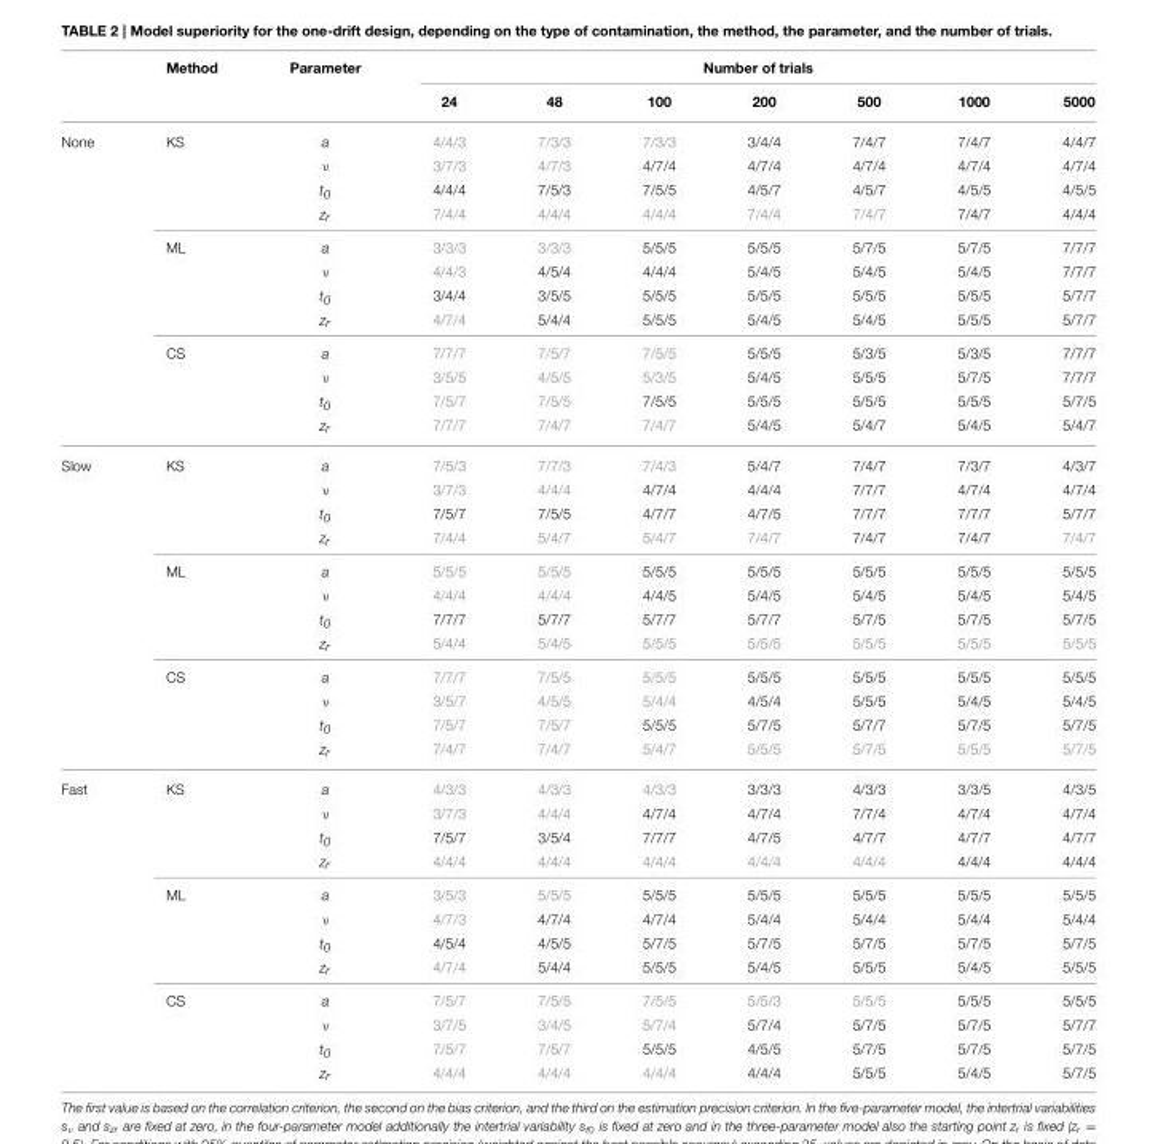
<table><thead><tr><td rowspan="2"></td><td rowspan="2">Method</td><td rowspan="2">Parameter</td><td colspan="7">Number of trials</td></tr><tr><td>24</td><td>48</td><td>100</td><td>200</td><td>500</td><td>1000</td><td>5000</td></tr></thead><tbody><tr><td rowspan="12">None</td><td>KS</td><td>a</td><td>4/4/3</td><td>7/3/3</td><td>7/3/3</td><td>3/4/4</td><td>7/4/7</td><td>7/4/7</td><td>4/4/7</td></tr><tr><td></td><td>ν</td><td>3/7/3</td><td>4/7/3</td><td>4/7/4</td><td>4/7/4</td><td>4/7/4</td><td>4/7/4</td><td>4/7/4</td></tr><tr><td></td><td>t<sub>0</sub></td><td>4/4/4</td><td>7/5/3</td><td>7/5/5</td><td>4/5/7</td><td>4/5/7</td><td>4/5/5</td><td>4/5/5</td></tr><tr><td></td><td>z<sub>r</sub></td><td>7/4/4</td><td>4/4/4</td><td>4/4/4</td><td>7/4/4</td><td>7/4/7</td><td>7/4/7</td><td>4/4/4</td></tr><tr><td>ML</td><td>a</td><td>3/3/3</td><td>3/3/3</td><td>5/5/5</td><td>5/5/5</td><td>5/7/5</td><td>5/7/5</td><td>7/7/7</td></tr><tr><td></td><td>ν</td><td>4/4/3</td><td>4/5/4</td><td>4/4/4</td><td>5/4/5</td><td>5/4/5</td><td>5/4/5</td><td>7/7/7</td></tr><tr><td></td><td>t<sub>0</sub></td><td>3/4/4</td><td>3/5/5</td><td>5/5/5</td><td>5/5/5</td><td>5/5/5</td><td>5/5/5</td><td>5/7/7</td></tr><tr><td></td><td>z<sub>r</sub></td><td>4/7/4</td><td>5/4/4</td><td>5/5/5</td><td>5/4/5</td><td>5/4/5</td><td>5/5/5</td><td>5/7/7</td></tr><tr><td>CS</td><td>a</td><td>7/7/7</td><td>7/5/7</td><td>7/5/5</td><td>5/5/5</td><td>5/3/5</td><td>5/3/5</td><td>7/7/7</td></tr><tr><td></td><td>ν</td><td>3/5/5</td><td>4/5/5</td><td>5/3/5</td><td>5/4/5</td><td>5/5/5</td><td>5/7/5</td><td>7/7/7</td></tr><tr><td></td><td>t<sub>0</sub></td><td>7/5/7</td><td>7/5/5</td><td>7/5/5</td><td>5/5/5</td><td>5/5/5</td><td>5/5/5</td><td>5/7/5</td></tr><tr><td></td><td>z<sub>r</sub></td><td>7/7/7</td><td>7/4/7</td><td>7/4/7</td><td>5/4/5</td><td>5/4/7</td><td>5/4/5</td><td>5/4/7</td></tr><tr><td rowspan="12">Slow</td><td>KS</td><td>a</td><td>7/5/3</td><td>7/7/3</td><td>7/4/3</td><td>5/4/7</td><td>7/4/7</td><td>7/3/7</td><td>4/3/7</td></tr><tr><td></td><td>ν</td><td>3/7/3</td><td>4/4/4</td><td>4/7/4</td><td>4/4/4</td><td>7/7/7</td><td>4/7/4</td><td>4/7/4</td></tr><tr><td></td><td>t<sub>0</sub></td><td>7/5/7</td><td>7/5/5</td><td>4/7/7</td><td>4/7/5</td><td>7/7/7</td><td>7/7/7</td><td>5/7/7</td></tr><tr><td></td><td>z<sub>r</sub></td><td>7/4/4</td><td>5/4/7</td><td>5/4/7</td><td>7/4/7</td><td>7/4/7</td><td>7/4/7</td><td>7/4/7</td></tr><tr><td>ML</td><td>a</td><td>5/5/5</td><td>5/5/5</td><td>5/5/5</td><td>5/5/5</td><td>5/5/5</td><td>5/5/5</td><td>5/5/5</td></tr><tr><td></td><td>ν</td><td>4/4/4</td><td>4/4/4</td><td>4/4/5</td><td>5/4/5</td><td>5/4/5</td><td>5/4/5</td><td>5/4/5</td></tr><tr><td></td><td>t<sub>0</sub></td><td>7/7/7</td><td>5/7/7</td><td>5/7/7</td><td>5/7/7</td><td>5/7/5</td><td>5/7/5</td><td>5/7/5</td></tr><tr><td></td><td>z<sub>r</sub></td><td>5/4/4</td><td>5/4/5</td><td>5/5/5</td><td>5/5/5</td><td>5/5/5</td><td>5/5/5</td><td>5/5/5</td></tr><tr><td>CS</td><td>a</td><td>7/7/7</td><td>7/5/5</td><td>5/5/5</td><td>5/5/5</td><td>5/5/5</td><td>5/5/5</td><td>5/5/5</td></tr><tr><td></td><td>ν</td><td>3/5/7</td><td>4/5/5</td><td>5/4/4</td><td>4/5/4</td><td>5/5/5</td><td>5/4/5</td><td>5/4/5</td></tr><tr><td></td><td>t<sub>0</sub></td><td>7/5/7</td><td>7/5/7</td><td>5/5/5</td><td>5/7/5</td><td>5/7/7</td><td>5/7/5</td><td>5/7/5</td></tr><tr><td></td><td>z<sub>r</sub></td><td>7/4/7</td><td>7/4/7</td><td>5/4/7</td><td>5/5/5</td><td>5/7/5</td><td>5/5/5</td><td>5/7/5</td></tr><tr><td rowspan="12">Fast</td><td>KS</td><td>a</td><td>4/3/3</td><td>4/3/3</td><td>4/3/3</td><td>3/3/3</td><td>4/3/3</td><td>3/3/5</td><td>4/3/5</td></tr><tr><td></td><td>ν</td><td>3/7/3</td><td>4/4/4</td><td>4/7/4</td><td>4/7/4</td><td>7/7/4</td><td>4/7/4</td><td>4/7/4</td></tr><tr><td></td><td>t<sub>0</sub></td><td>7/5/7</td><td>3/5/4</td><td>7/7/7</td><td>4/7/5</td><td>4/7/7</td><td>4/7/7</td><td>4/7/7</td></tr><tr><td></td><td>z<sub>r</sub></td><td>4/4/4</td><td>4/4/4</td><td>4/4/4</td><td>4/4/4</td><td>4/4/4</td><td>4/4/4</td><td>4/4/4</td></tr><tr><td>ML</td><td>a</td><td>3/5/3</td><td>5/5/5</td><td>5/5/5</td><td>5/5/5</td><td>5/5/5</td><td>5/5/5</td><td>5/5/5</td></tr><tr><td></td><td>ν</td><td>4/7/3</td><td>4/7/4</td><td>4/7/4</td><td>5/4/4</td><td>5/4/4</td><td>5/4/4</td><td>5/4/4</td></tr><tr><td></td><td>t<sub>0</sub></td><td>4/5/4</td><td>4/5/5</td><td>5/7/5</td><td>5/7/5</td><td>5/7/5</td><td>5/7/5</td><td>5/7/5</td></tr><tr><td></td><td>z<sub>r</sub></td><td>4/7/4</td><td>5/4/4</td><td>5/5/5</td><td>5/4/5</td><td>5/5/5</td><td>5/4/5</td><td>5/5/5</td></tr><tr><td>CS</td><td>a</td><td>7/5/7</td><td>7/5/5</td><td>7/5/5</td><td>5/5/3</td><td>5/5/5</td><td>5/5/5</td><td>5/5/5</td></tr><tr><td></td><td>ν</td><td>3/7/5</td><td>3/4/5</td><td>5/7/4</td><td>5/7/4</td><td>5/7/5</td><td>5/7/5</td><td>5/7/7</td></tr><tr><td></td><td>t<sub>0</sub></td><td>7/5/7</td><td>7/5/7</td><td>5/5/5</td><td>4/5/5</td><td>5/7/5</td><td>5/7/5</td><td>5/7/5</td></tr><tr><td></td><td>z<sub>r</sub></td><td>4/4/4</td><td>4/4/4</td><td>4/4/4</td><td>4/4/4</td><td>5/5/5</td><td>5/4/5</td><td>5/7/5</td></tr></tbody></table>